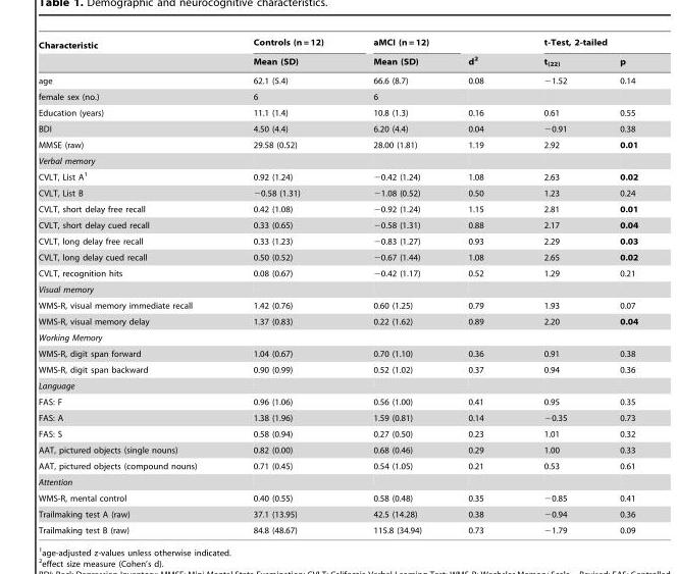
<table><thead><tr><td rowspan="2">Characteristic</td><td rowspan="2">Controls (n = 12) Mean (SD)</td><td rowspan="2">aMCI (n = 12) Mean (SD)</td><td rowspan="2">d<sup>2</sup></td><td colspan="2">t-Test, 2-tailed</td></tr><tr><td>t<sub>(22)</sub></td><td>p</td></tr></thead><tbody><tr><td>age</td><td>62.1 (5.4)</td><td>66.6 (8.7)</td><td>0.08</td><td>−1.52</td><td>0.14</td></tr><tr><td>female sex (no.)</td><td>6</td><td>6</td><td></td><td></td><td></td></tr><tr><td>Education (years)</td><td>11.1 (1.4)</td><td>10.8 (1.3)</td><td>0.16</td><td>0.61</td><td>0.55</td></tr><tr><td>BDI</td><td>4.50 (4.4)</td><td>6.20 (4.4)</td><td>0.04</td><td>−0.91</td><td>0.38</td></tr><tr><td>MMSE (raw)</td><td>29.58 (0.52)</td><td>28.00 (1.81)</td><td>1.19</td><td>2.92</td><td>0.01</td></tr><tr><td colspan="6">Verbal memory</td></tr><tr><td>CVLT, List A<sup>1</sup></td><td>0.92 (1.24)</td><td>−0.42 (1.24)</td><td>1.08</td><td>2.63</td><td>0.02</td></tr><tr><td>CVLT, List B</td><td>−0.58 (1.31)</td><td>−1.08 (0.52)</td><td>0.50</td><td>1.23</td><td>0.24</td></tr><tr><td>CVLT, short delay free recall</td><td>0.42 (1.08)</td><td>−0.92 (1.24)</td><td>1.15</td><td>2.81</td><td>0.01</td></tr><tr><td>CVLT, short delay cued recall</td><td>0.33 (0.65)</td><td>−0.58 (1.31)</td><td>0.88</td><td>2.17</td><td>0.04</td></tr><tr><td>CVLT, long delay free recall</td><td>0.33 (1.23)</td><td>−0.83 (1.27)</td><td>0.93</td><td>2.29</td><td>0.03</td></tr><tr><td>CVLT, long delay cued recall</td><td>0.50 (0.52)</td><td>−0.67 (1.44)</td><td>1.08</td><td>2.65</td><td>0.02</td></tr><tr><td>CVLT, recognition hits</td><td>0.08 (0.67)</td><td>−0.42 (1.17)</td><td>0.52</td><td>1.29</td><td>0.21</td></tr><tr><td colspan="6">Visual memory</td></tr><tr><td>WMS-R, visual memory immediate recall</td><td>1.42 (0.76)</td><td>0.60 (1.25)</td><td>0.79</td><td>1.93</td><td>0.07</td></tr><tr><td>WMS-R, visual memory delay</td><td>1.37 (0.83)</td><td>0.22 (1.62)</td><td>0.89</td><td>2.20</td><td>0.04</td></tr><tr><td colspan="6">Working Memory</td></tr><tr><td>WMS-R, digit span forward</td><td>1.04 (0.67)</td><td>0.70 (1.10)</td><td>0.36</td><td>0.91</td><td>0.38</td></tr><tr><td>WMS-R, digit span backward</td><td>0.90 (0.99)</td><td>0.52 (1.02)</td><td>0.37</td><td>0.94</td><td>0.36</td></tr><tr><td colspan="6">Language</td></tr><tr><td>FAS: F</td><td>0.96 (1.06)</td><td>0.56 (1.00)</td><td>0.41</td><td>0.95</td><td>0.35</td></tr><tr><td>FAS: A</td><td>1.38 (1.96)</td><td>1.59 (0.81)</td><td>0.14</td><td>−0.35</td><td>0.73</td></tr><tr><td>FAS: S</td><td>0.58 (0.94)</td><td>0.27 (0.50)</td><td>0.23</td><td>1.01</td><td>0.32</td></tr><tr><td>AAT, pictured objects (single nouns)</td><td>0.82 (0.00)</td><td>0.68 (0.46)</td><td>0.29</td><td>1.00</td><td>0.33</td></tr><tr><td>AAT, pictured objects (compound nouns)</td><td>0.71 (0.45)</td><td>0.54 (1.05)</td><td>0.21</td><td>0.53</td><td>0.61</td></tr><tr><td colspan="6">Attention</td></tr><tr><td>WMS-R, mental control</td><td>0.40 (0.55)</td><td>0.58 (0.48)</td><td>0.35</td><td>−0.85</td><td>0.41</td></tr><tr><td>Trailmaking test A (raw)</td><td>37.1 (13.95)</td><td>42.5 (14.28)</td><td>0.38</td><td>−0.94</td><td>0.36</td></tr><tr><td>Trailmaking test B (raw)</td><td>84.8 (48.67)</td><td>115.8 (34.94)</td><td>0.73</td><td>−1.79</td><td>0.09</td></tr></tbody></table>